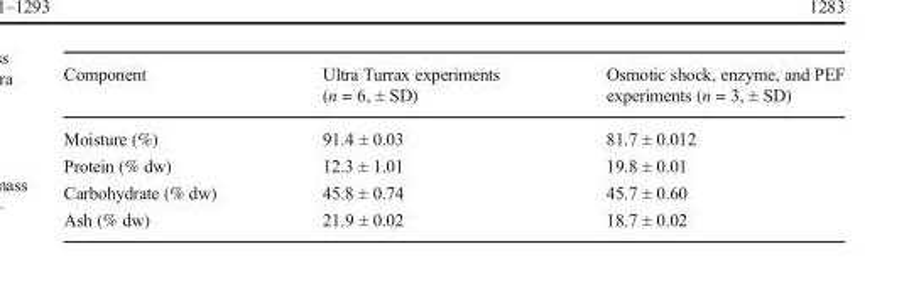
<table><thead><tr><td>Component</td><td>Ultra Turrax experiments (n = 6, ± SD)</td><td>Osmotic shock, enzyme, and PEF experiments (n = 3, ± SD)</td></tr></thead><tbody><tr><td>Moisture (%)</td><td>91.4 ± 0.03</td><td>81.7 ± 0.012</td></tr><tr><td>Protein (% dw)</td><td>12.3 ± 1.01</td><td>19.8 ± 0.01</td></tr><tr><td>Carbohydrate (% dw)</td><td>45.8 ± 0.74</td><td>45.7 ± 0.60</td></tr><tr><td>Ash (% dw)</td><td>21.9 ± 0.02</td><td>18.7 ± 0.02</td></tr></tbody></table>